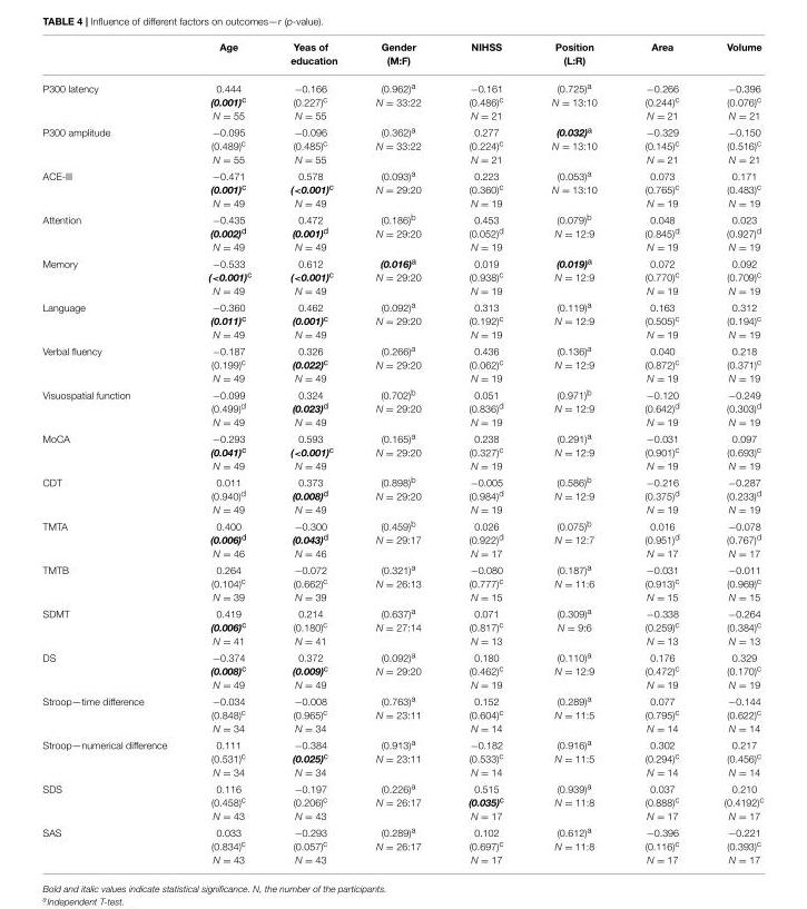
<table><thead><tr><td></td><td>Age</td><td>Yeas of education</td><td>Gender (M:F)</td><td>NIHSS</td><td>Position (L:R)</td><td>Area</td><td>Volume</td></tr></thead><tbody><tr><td>P300 latency</td><td>0.444 (0.001)<sup>c</sup> N = 55</td><td>−0.166 (0.227)c N = 55</td><td>(0.962)<sup>a</sup> N = 33:22</td><td>−0.161 (0.486)<sup>c</sup> N = 21</td><td>(0.725)<sup>a</sup> N = 13:10</td><td>−0.266 (0.244)<sup>c</sup> N = 21</td><td>−0.396 (0.076)<sup>c</sup> N = 21</td></tr><tr><td>P300 amplitude</td><td>−0.095 (0.489)<sup>c</sup> N = 55</td><td>−0.096 (0.485)<sup>c</sup> N = 55</td><td>(0.362)<sup>a</sup> N = 33:22</td><td>0.277 (0.224)<sup>c</sup> N = 21</td><td>(0.032)<sup>a</sup> N = 13:10</td><td>−0.329 (0.145)<sup>c</sup> N = 21</td><td>−0.150 (0.516)<sup>c</sup> N = 21</td></tr><tr><td>ACE-III</td><td>−0.471 (0.001)<sup>c</sup> N = 49</td><td>0.578 (&lt;0.001)<sup>c</sup> N = 49</td><td>(0.093)<sup>a</sup> N = 29:20</td><td>0.223 (0.360)<sup>c</sup> N = 19</td><td>(0.053)<sup>a</sup> N = 13:10</td><td>0.073 (0.765)<sup>c</sup> N = 19</td><td>0.171 (0.483)<sup>c</sup> N = 19</td></tr><tr><td>Attention</td><td>−0.435 (0.002)<sup>d</sup> N = 49</td><td>0.472 (0.001)<sup>d</sup> N = 49</td><td>(0.186)<sup>b</sup> N = 29:20</td><td>0.453 (0.052)<sup>d</sup> N = 19</td><td>(0.079)<sup>b</sup> N = 12:9</td><td>0.048 (0.845)<sup>d</sup> N = 19</td><td>0.023 (0.927)<sup>d</sup> N = 19</td></tr><tr><td>Memory</td><td>−0.533 (&lt;0.001)<sup>c</sup> N = 49</td><td>0.612 (&lt;0.001)<sup>c</sup> N = 49</td><td>(0.016)<sup>a</sup> N = 29:20</td><td>0.019 (0.938)<sup>c</sup> N = 19</td><td>(0.019)<sup>a</sup> N = 12:9</td><td>0.072 (0.770)<sup>c</sup> N = 19</td><td>0.092 (0.709)<sup>c</sup> N = 19</td></tr><tr><td>Language</td><td>−0.360 (0.011)<sup>c</sup> N = 49</td><td>0.462 (0.001)<sup>c</sup> N = 49</td><td>(0.092)<sup>a</sup> N = 29:20</td><td>0.313 (0.192)<sup>c</sup> N = 19</td><td>(0.119)<sup>a</sup> N = 12:9</td><td>0.163 (0.505)<sup>c</sup> N = 19</td><td>0.312 (0.194)<sup>c</sup> N = 19</td></tr><tr><td>Verbal fluency</td><td>−0.187 (0.199)<sup>c</sup> N = 49</td><td>0.326 (0.022)<sup>c</sup> N = 49</td><td>(0.266)a N = 29:20</td><td>0.436 (0.062)<sup>c</sup> N = 19</td><td>(0.136)a N = 12:9</td><td>0.040 (0.872)<sup>c</sup> N = 19</td><td>0.218 (0.371)<sup>c</sup> N = 19</td></tr><tr><td>Visuospatial function</td><td>−0.099 (0.499)<sup>d</sup> N = 49</td><td>0.324 (0.023)<sup>d</sup> N = 49</td><td>(0.702)<sup>b</sup> N = 29:20</td><td>0.051 (0.836)<sup>d</sup> N = 19</td><td>(0.971)<sup>b</sup> N = 12:9</td><td>−0.120 (0.642)<sup>d</sup> N = 19</td><td>−0.249 (0.303)<sup>d</sup> N = 19</td></tr><tr><td>MoCA</td><td>−0.293 (0.041)<sup>c</sup> N = 49</td><td>0.593 (&lt;0.001)<sup>c</sup> N = 49</td><td>(0.165)<sup>a</sup> N = 29:20</td><td>0.238 (0.327)<sup>c</sup> N = 19</td><td>(0.291)<sup>a</sup> N = 12:9</td><td>−0.031 (0.901)<sup>c</sup> N = 19</td><td>0.097 (0.693)<sup>c</sup> N = 19</td></tr><tr><td>CDT</td><td>0.011 (0.940)<sup>d</sup> N = 49</td><td>0.373 (0.008)<sup>d</sup> N = 49</td><td>(0.898)<sup>b</sup> N = 29:20</td><td>−0.005 (0.984)<sup>d</sup> N = 19</td><td>(0.586)<sup>b</sup> N = 12:9</td><td>−0.216 (0.375)<sup>d</sup> N = 19</td><td>−0.287 (0.233)<sup>d</sup> N = 19</td></tr><tr><td>TMTA</td><td>0.400 (0.006)<sup>d</sup> N = 46</td><td>−0.300 (0.043)<sup>d</sup> N = 46</td><td>(0.459)<sup>b</sup> N = 29:17</td><td>0.026 (0.922)<sup>d</sup> N = 17</td><td>(0.075)<sup>b</sup> N = 12:7</td><td>0.016 (0.951)<sup>d</sup> N = 17</td><td>−0.078 (0.767)<sup>d</sup> N = 17</td></tr><tr><td>TMTB</td><td>0.264 (0.104)<sup>c</sup> N = 39</td><td>−0.072 (0.662)<sup>c</sup> N = 39</td><td>(0.321)<sup>a</sup> N = 26:13</td><td>−0.080 (0.777)<sup>c</sup> N = 15</td><td>(0.187)<sup>a</sup> N = 11:6</td><td>−0.031 (0.913)<sup>c</sup> N = 15</td><td>−0.011 (0.969)<sup>c</sup> N = 15</td></tr><tr><td>SDMT</td><td>0.419 (0.006)<sup>c</sup> N = 41</td><td>0.214 (0.180)<sup>c</sup> N = 41</td><td>(0.637)<sup>a</sup> N = 27:14</td><td>0.071 (0.817)<sup>c</sup> N = 13</td><td>(0.309)<sup>a</sup> N = 9:6</td><td>−0.338 (0.259)<sup>c</sup> N = 13</td><td>−0.264 (0.384)<sup>c</sup> N = 13</td></tr><tr><td>DS</td><td>−0.374 (0.008)<sup>c</sup> N = 49</td><td>0.372 (0.009)<sup>c</sup> N = 49</td><td>(0.092)<sup>a</sup> N = 29:20</td><td>0.180 (0.462)<sup>c</sup> N = 19</td><td>(0.110)<sup>a</sup> N = 12:9</td><td>0.176 (0.472)<sup>c</sup> N = 19</td><td>0.329 (0.170)<sup>c</sup> N = 19</td></tr><tr><td>Stroop—time difference</td><td>−0.034 (0.848)<sup>c</sup> N = 34</td><td>−0.008 (0.965)<sup>c</sup> N = 34</td><td>(0.763)<sup>a</sup> N = 23:11</td><td>0.152 (0.604)<sup>c</sup> N = 14</td><td>(0.289)<sup>a</sup> N = 11:5</td><td>0.077 (0.795)<sup>c</sup> N = 14</td><td>−0.144 (0.622)<sup>c</sup> N = 14</td></tr><tr><td>Stroop—numerical difference</td><td>0.111 (0.531)<sup>c</sup> N = 34</td><td>−0.384 (0.025)<sup>c</sup> N = 34</td><td>(0.913)<sup>a</sup> N = 23:11</td><td>−0.182 (0.533)<sup>c</sup> N = 14</td><td>(0.916)<sup>a</sup> N = 11:5</td><td>0.302 (0.294)<sup>c</sup> N = 14</td><td>0.217 (0.456)<sup>c</sup> N = 14</td></tr><tr><td>SDS</td><td>0.116 (0.458)<sup>c</sup> N = 43</td><td>−0.197 (0.206)<sup>c</sup> N = 43</td><td>(0.226)<sup>a</sup> N = 26:17</td><td>0.515 (0.035)<sup>c</sup> N = 17</td><td>(0.939)<sup>a</sup> N = 11:8</td><td>0.037 (0.888)<sup>c</sup> N = 17</td><td>0.210 (0.4192)<sup>c</sup> N = 17</td></tr><tr><td>SAS</td><td>0.033 (0.834)<sup>c</sup> N = 43</td><td>−0.293 (0.057)<sup>c</sup> N = 43</td><td>(0.289)<sup>a</sup> N = 26:17</td><td>0.102 (0.697)<sup>c</sup> N = 17</td><td>(0.612)<sup>a</sup> N = 11:8</td><td>−0.396 (0.116)<sup>c</sup> N = 17</td><td>−0.221 (0.393)<sup>c</sup> N = 17</td></tr></tbody></table>